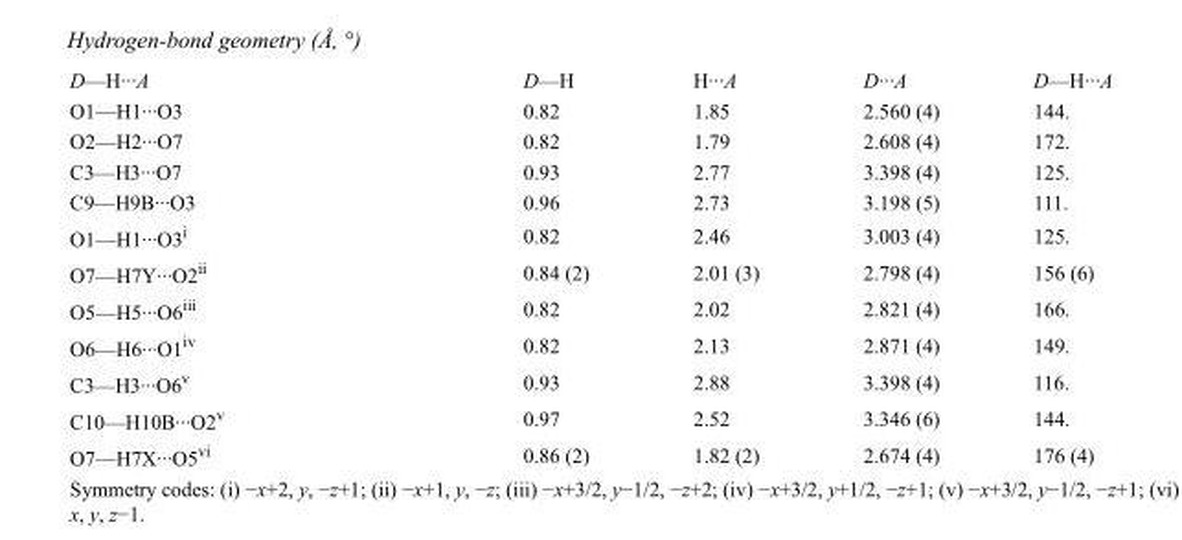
<table><tbody><tr><td>D—H···A</td><td>D—H</td><td>H···A</td><td>D···A</td><td>D—H···A</td></tr><tr><td>O1—H1···O3</td><td>0.82</td><td>1.85</td><td>2.560 (4)</td><td>144.</td></tr><tr><td>O2—H2···O7</td><td>0.82</td><td>1.79</td><td>2.608 (4)</td><td>172.</td></tr><tr><td>C3—H3···O7</td><td>0.93</td><td>2.77</td><td>3.398 (4)</td><td>125.</td></tr><tr><td>C9—H9B···O3</td><td>0.96</td><td>2.73</td><td>3.198 (5)</td><td>111.</td></tr><tr><td>O1—H1···O3<sup>i</sup></td><td>0.82</td><td>2.46</td><td>3.003 (4)</td><td>125.</td></tr><tr><td>O7—H7Y···O2<sup>ii</sup></td><td>0.84 (2)</td><td>2.01 (3)</td><td>2.798 (4)</td><td>156 (6)</td></tr><tr><td>O5—H5···O6<sup>iii</sup></td><td>0.82</td><td>2.02</td><td>2.821 (4)</td><td>166.</td></tr><tr><td>O6—H6···O1<sup>iv</sup></td><td>0.82</td><td>2.13</td><td>2.871 (4)</td><td>149.</td></tr><tr><td>C3—H3···O6<sup>v</sup></td><td>0.93</td><td>2.88</td><td>3.398 (4)</td><td>116.</td></tr><tr><td>C10—H10B···O2<sup>v</sup></td><td>0.97</td><td>2.52</td><td>3.346 (6)</td><td>144.</td></tr><tr><td>O7—H7X···O5<sup>vi</sup></td><td>0.86 (2)</td><td>1.82 (2)</td><td>2.674 (4)</td><td>176 (4)</td></tr></tbody></table>